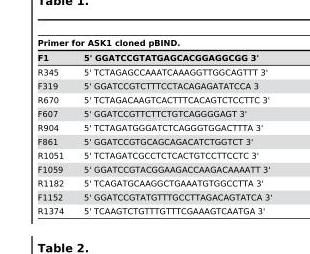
<table><thead><tr><td colspan="2">Primer for ASK1 cloned pBIND.</td></tr><tr><td>F1</td><td>5&#x27; GGATCCGTATGAGCACGGAGGCGG 3&#x27;</td></tr></thead><tbody><tr><td>R345</td><td>5&#x27; TCTAGAGCCAAATCAAAGGTTGGCAGTTT 3&#x27;</td></tr><tr><td>F319</td><td>5&#x27; GGATCCGTCTTTCCTACAGAGATATCCA 3</td></tr><tr><td>R670</td><td>5&#x27; TCTAGACAAGTCACTTTCACAGTCTCCTTC 3&#x27;</td></tr><tr><td>F607</td><td>5&#x27; GGATCCGTTCTTCTGTCAGGGGAGT 3&#x27;</td></tr><tr><td>R904</td><td>5&#x27; TCTAGATGGGATCTCAGGGTGGACTTTA 3&#x27;</td></tr><tr><td>F861</td><td>5&#x27; GGATCCGTGCAGCAGACATCTGGTCT 3&#x27;</td></tr><tr><td>R1051</td><td>5&#x27; TCTAGATCGCCTCTCACTGTCCTTCCTC 3&#x27;</td></tr><tr><td>F1059</td><td>5&#x27; GGATCCGTACGGAAGACCAAGACAAAATT 3&#x27;</td></tr><tr><td>R1182</td><td>5&#x27; TCAGATGCAAGGCTGAAATGTGGCCTTA 3&#x27;</td></tr><tr><td>F1152</td><td>5&#x27; GGATCCGTATGTTTGCCTTAGACAGTATCA 3&#x27;</td></tr><tr><td>R1374</td><td>5&#x27; TCAAGTCTGTTTGTTTCGAAAGTCAATGA 3&#x27;</td></tr></tbody></table>